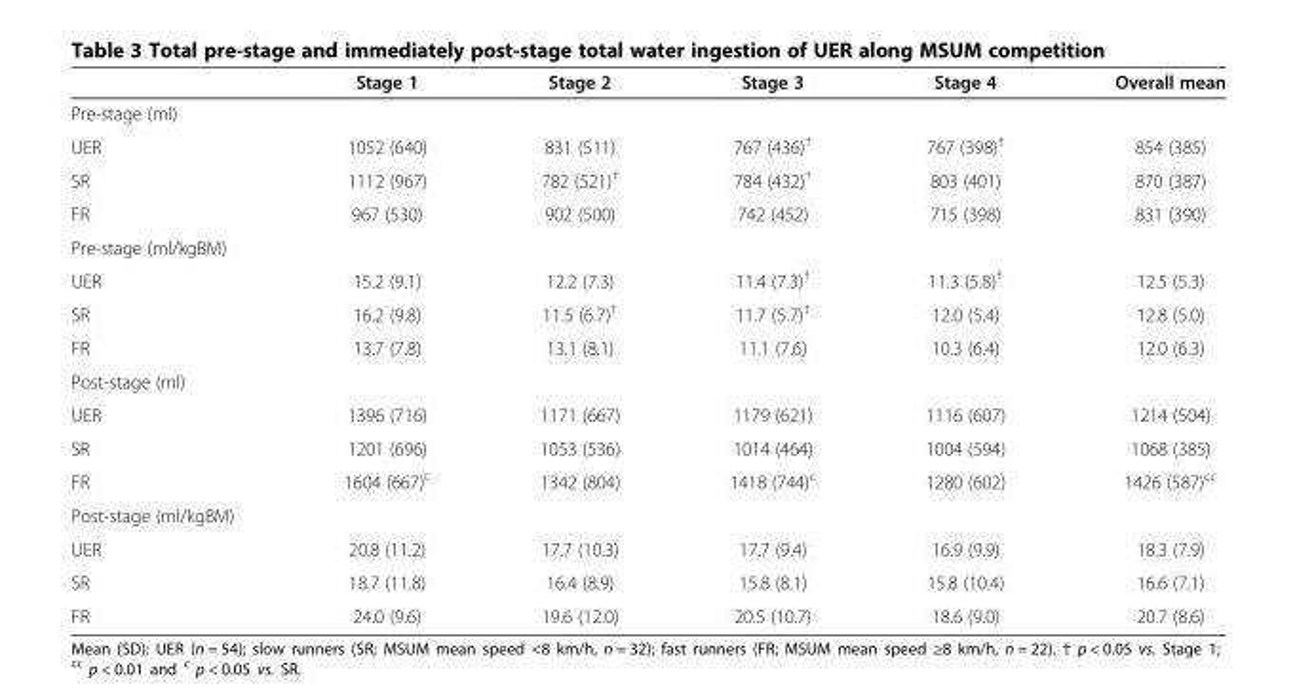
<table><thead><tr><td></td><td>Stage 1</td><td>Stage 2</td><td>Stage 3</td><td>Stage 4</td><td>Overall mean</td></tr></thead><tbody><tr><td colspan="6">Pre-stage (ml)</td></tr><tr><td>UER</td><td>1052 (640)</td><td>831 (511)</td><td>767 (436)<sup>†</sup></td><td>767 (398)<sup>†</sup></td><td>854 (385)</td></tr><tr><td>SR</td><td>1112 (967)</td><td>782 (521)<sup>†</sup></td><td>784 (432)<sup>†</sup></td><td>803 (401)</td><td>870 (387)</td></tr><tr><td>FR</td><td>967 (530)</td><td>902 (500)</td><td>742 (452)</td><td>715 (398)</td><td>831 (390)</td></tr><tr><td colspan="6">Pre-stage (ml/kgBM)</td></tr><tr><td>UER</td><td>15.2 (9.1)</td><td>12.2 (7.3)</td><td>11.4 (7.3)<sup>†</sup></td><td>11.3 (5.8)<sup>†</sup></td><td>12.5 (5.3)</td></tr><tr><td>SR</td><td>16.2 (9.8)</td><td>11.5 (6.7)<sup>†</sup></td><td>11.7 (5.7)<sup>†</sup></td><td>12.0 (5.4)</td><td>12.8 (5.0)</td></tr><tr><td>FR</td><td>13.7 (7.8)</td><td>13.1 (8.1)</td><td>11.1 (7.6)</td><td>10.3 (6.4)</td><td>12.0 (6.3)</td></tr><tr><td colspan="6">Post-stage (ml)</td></tr><tr><td>UER</td><td>1396 (716)</td><td>1171 (667)</td><td>1179 (621)</td><td>1116 (607)</td><td>1214 (504)</td></tr><tr><td>SR</td><td>1201 (696)</td><td>1053 (536)</td><td>1014 (464)</td><td>1004 (594)</td><td>1068 (385)</td></tr><tr><td>FR</td><td>1604 (667)<sup>c</sup></td><td>1342 (804)</td><td>1418 (744)<sup>c</sup></td><td>1280 (602)</td><td>1426 (587)<sup>cc</sup></td></tr><tr><td colspan="6">Post-stage (ml/kgBM)</td></tr><tr><td>UER</td><td>20.8 (11.2)</td><td>17.7 (10.3)</td><td>17.7 (9.4)</td><td>16.9 (9.9)</td><td>18.3 (7.9)</td></tr><tr><td>SR</td><td>18.7 (11.8)</td><td>16.4 (8.9)</td><td>15.8 (8.1)</td><td>15.8 (10.4)</td><td>16.6 (7.1)</td></tr><tr><td>FR</td><td>24.0 (9.6)</td><td>19.6 (12.0)</td><td>20.5 (10.7)</td><td>18.6 (9.0)</td><td>20.7 (8.6)</td></tr></tbody></table>